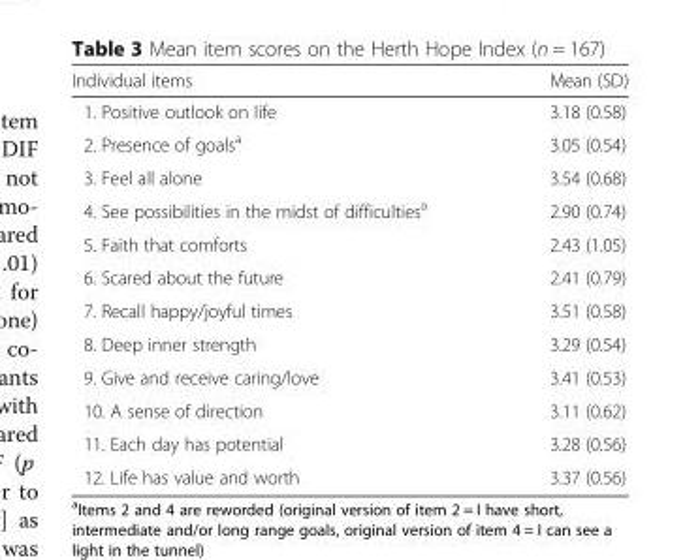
<table><thead><tr><td>Individual items</td><td>Mean (SD)</td></tr></thead><tbody><tr><td>1. Positive outlook on life</td><td>3.18 (0.58)</td></tr><tr><td>2. Presence of goals<sup>a</sup></td><td>3.05 (0.54)</td></tr><tr><td>3. Feel all alone</td><td>3.54 (0.68)</td></tr><tr><td>4. See possibilities in the midst of difficulties<sup>a</sup></td><td>2.90 (0.74)</td></tr><tr><td>5. Faith that comforts</td><td>2.43 (1.05)</td></tr><tr><td>6. Scared about the future</td><td>2.41 (0.79)</td></tr><tr><td>7. Recall happy/joyful times</td><td>3.51 (0.58)</td></tr><tr><td>8. Deep inner strength</td><td>3.29 (0.54)</td></tr><tr><td>9. Give and receive caring/love</td><td>3.41 (0.53)</td></tr><tr><td>10. A sense of direction</td><td>3.11 (0.62)</td></tr><tr><td>11. Each day has potential</td><td>3.28 (0.56)</td></tr><tr><td>12. Life has value and worth</td><td>3.37 (0.56)</td></tr></tbody></table>